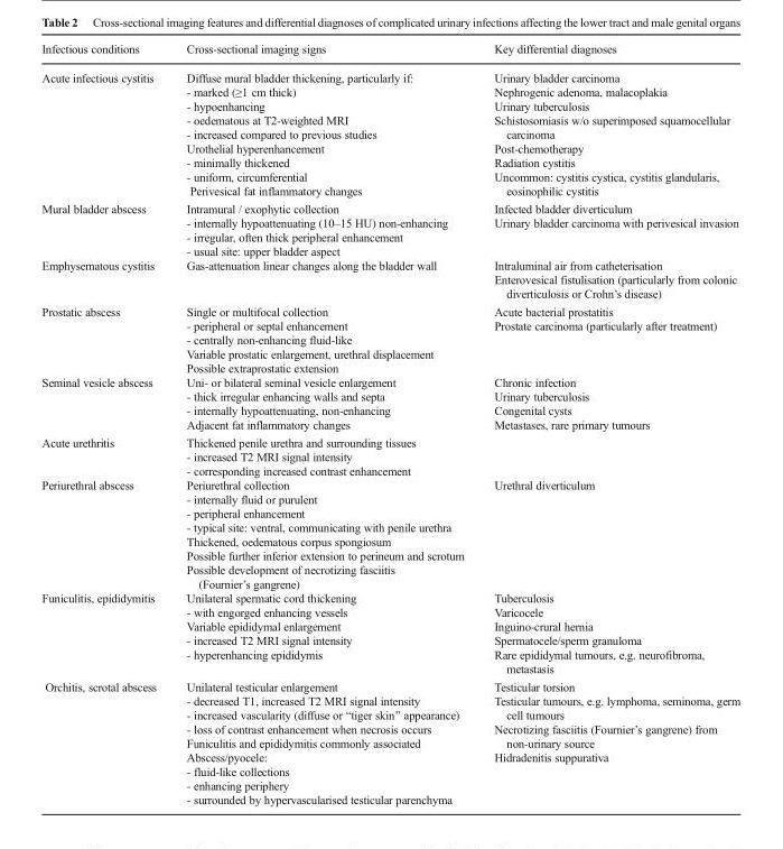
<table><thead><tr><td>Infectious conditions</td><td>Cross-sectional imaging signs</td><td>Key differential diagnoses</td></tr></thead><tbody><tr><td>Acute infectious cystitis</td><td>Diffuse mural bladder thickening, particularly if: - marked (≥1 cm thick) - hypoenhancing - oedematous at T2-weighted MRI - increased compared to previous studies Urothelial hyperenhancement - minimally thickened - uniform, circumferential Perivesical fat inflammatory changes</td><td>Urinary bladder carcinoma Nephrogenic adenoma, malacoplakia Urinary tuberculosis Schistosomiasis w/o superimposed squamocellular carcinoma Post-chemotherapy Radiation cystitis Uncommon: cystitis cystica, cystitis glandularis, eosinophilic cystitis</td></tr><tr><td>Mural bladder abscess</td><td>Intramural / exophytic collection - internally hypoattenuating (10–15 HU) non-enhancing - irregular, often thick peripheral enhancement - usual site: upper bladder aspect</td><td>Infected bladder diverticulum Urinary bladder carcinoma with perivesical invasion</td></tr><tr><td>Emphysematous cystitis</td><td>Gas-attenuation linear changes along the bladder wall</td><td>Intraluminal air from catheterisation Enterovesical fistulisation (particularly from colonic diverticulosis or Crohn’s disease)</td></tr><tr><td>Prostatic abscess</td><td>Single or multifocal collection - peripheral or septal enhancement - centrally non-enhancing fluid-like Variable prostatic enlargement, urethral displacement Possible extraprostatic extension</td><td>Acute bacterial prostatitis Prostate carcinoma (particularly after treatment)</td></tr><tr><td>Seminal vesicle abscess</td><td>Uni- or bilateral seminal vesicle enlargement - thick irregular enhancing walls and septa - internally hypoattenuating, non-enhancing Adjacent fat inflammatory changes</td><td>Chronic infection Urinary tuberculosis Congenital cysts Metastases, rare primary tumours</td></tr><tr><td>Acute urethritis</td><td>Thickened penile urethra and surrounding tissues - increased T2 MRI signal intensity - corresponding increased contrast enhancement</td><td></td></tr><tr><td>Periurethral abscess</td><td>Periurethral collection - internally fluid or purulent - peripheral enhancement - typical site: ventral, communicating with penile urethra Thickened, oedematous corpus spongiosum Possible further inferior extension to perineum and scrotum Possible development of necrotizing fasciitis (Fournier’s gangrene)</td><td>Urethral diverticulum</td></tr><tr><td>Funiculitis, epididymitis</td><td>Unilateral spermatic cord thickening - with engorged enhancing vessels Variable epididymal enlargement - increased T2 MRI signal intensity - hyperenhancing epididymis</td><td>Tuberculosis Varicocele Inguino-crural hernia Spermatocele/sperm granuloma Rare epididymal tumours, e.g. neurofibroma, metastasis</td></tr><tr><td>Orchitis, scrotal abscess</td><td>Unilateral testicular enlargement - decreased T1, increased T2 MRI signal intensity - increased vascularity (diffuse or “tiger skin” appearance) - loss of contrast enhancement when necrosis occurs Funiculitis and epididymitis commonly associated Abscess/pyocele: - fluid-like collections - enhancing periphery - surrounded by hypervascularised testicular parenchyma</td><td>Testicular torsion Testicular tumours, e.g. lymphoma, seminoma, germ cell tumours Necrotizing fasciitis (Fournier’s gangrene) from non-urinary source Hidradenitis suppurativa</td></tr></tbody></table>